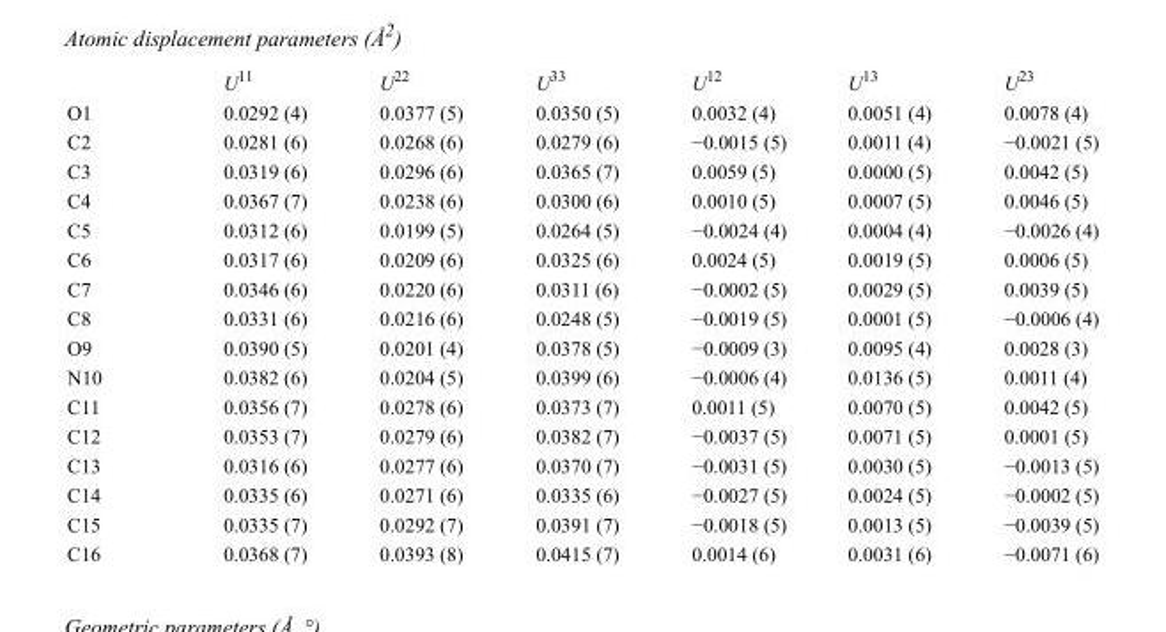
<table><thead><tr><td></td><td>U<sup>11</sup></td><td>U<sup>22</sup></td><td>U<sup>33</sup></td><td>U<sup>12</sup></td><td>U<sup>13</sup></td><td>U<sup>23</sup></td></tr></thead><tbody><tr><td>O1</td><td>0.0292 (4)</td><td>0.0377 (5)</td><td>0.0350 (5)</td><td>0.0032 (4)</td><td>0.0051 (4)</td><td>0.0078 (4)</td></tr><tr><td>C2</td><td>0.0281 (6)</td><td>0.0268 (6)</td><td>0.0279 (6)</td><td>−0.0015 (5)</td><td>0.0011 (4)</td><td>−0.0021 (5)</td></tr><tr><td>C3</td><td>0.0319 (6)</td><td>0.0296 (6)</td><td>0.0365 (7)</td><td>0.0059 (5)</td><td>0.0000 (5)</td><td>0.0042 (5)</td></tr><tr><td>C4</td><td>0.0367 (7)</td><td>0.0238 (6)</td><td>0.0300 (6)</td><td>0.0010 (5)</td><td>0.0007 (5)</td><td>0.0046 (5)</td></tr><tr><td>C5</td><td>0.0312 (6)</td><td>0.0199 (5)</td><td>0.0264 (5)</td><td>−0.0024 (4)</td><td>0.0004 (4)</td><td>−0.0026 (4)</td></tr><tr><td>C6</td><td>0.0317 (6)</td><td>0.0209 (6)</td><td>0.0325 (6)</td><td>0.0024 (5)</td><td>0.0019 (5)</td><td>0.0006 (5)</td></tr><tr><td>C7</td><td>0.0346 (6)</td><td>0.0220 (6)</td><td>0.0311 (6)</td><td>−0.0002 (5)</td><td>0.0029 (5)</td><td>0.0039 (5)</td></tr><tr><td>C8</td><td>0.0331 (6)</td><td>0.0216 (6)</td><td>0.0248 (5)</td><td>−0.0019 (5)</td><td>0.0001 (5)</td><td>−0.0006 (4)</td></tr><tr><td>O9</td><td>0.0390 (5)</td><td>0.0201 (4)</td><td>0.0378 (5)</td><td>−0.0009 (3)</td><td>0.0095 (4)</td><td>0.0028 (3)</td></tr><tr><td>N10</td><td>0.0382 (6)</td><td>0.0204 (5)</td><td>0.0399 (6)</td><td>−0.0006 (4)</td><td>0.0136 (5)</td><td>0.0011 (4)</td></tr><tr><td>C11</td><td>0.0356 (7)</td><td>0.0278 (6)</td><td>0.0373 (7)</td><td>0.0011 (5)</td><td>0.0070 (5)</td><td>0.0042 (5)</td></tr><tr><td>C12</td><td>0.0353 (7)</td><td>0.0279 (6)</td><td>0.0382 (7)</td><td>−0.0037 (5)</td><td>0.0071 (5)</td><td>0.0001 (5)</td></tr><tr><td>C13</td><td>0.0316 (6)</td><td>0.0277 (6)</td><td>0.0370 (7)</td><td>−0.0031 (5)</td><td>0.0030 (5)</td><td>−0.0013 (5)</td></tr><tr><td>C14</td><td>0.0335 (6)</td><td>0.0271 (6)</td><td>0.0335 (6)</td><td>−0.0027 (5)</td><td>0.0024 (5)</td><td>−0.0002 (5)</td></tr><tr><td>C15</td><td>0.0335 (7)</td><td>0.0292 (7)</td><td>0.0391 (7)</td><td>−0.0018 (5)</td><td>0.0013 (5)</td><td>−0.0039 (5)</td></tr><tr><td>C16</td><td>0.0368 (7)</td><td>0.0393 (8)</td><td>0.0415 (7)</td><td>0.0014 (6)</td><td>0.0031 (6)</td><td>−0.0071 (6)</td></tr></tbody></table>